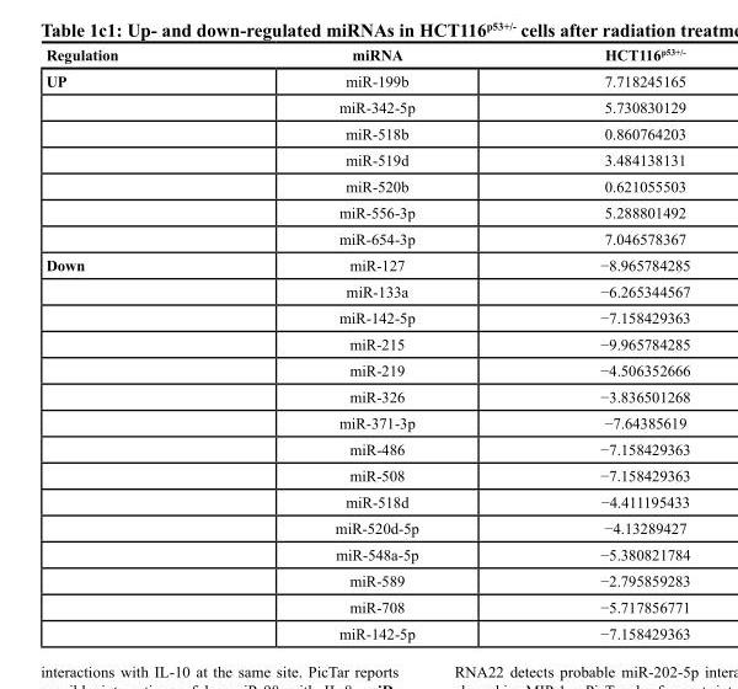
<table><thead><tr><td>Regulation</td><td>miRNA</td><td>HCT116<sup>p53+/-</sup></td></tr></thead><tbody><tr><td rowspan="7">UP</td><td>miR-199b</td><td>7.718245165</td></tr><tr><td>miR-342-5p</td><td>5.730830129</td></tr><tr><td>miR-518b</td><td>0.860764203</td></tr><tr><td>miR-519d</td><td>3.484138131</td></tr><tr><td>miR-520b</td><td>0.621055503</td></tr><tr><td>miR-556-3p</td><td>5.288801492</td></tr><tr><td>miR-654-3p</td><td>7.046578367</td></tr><tr><td rowspan="15">Down</td><td>miR-127</td><td>−8.965784285</td></tr><tr><td>miR-133a</td><td>−6.265344567</td></tr><tr><td>miR-142-5p</td><td>−7.158429363</td></tr><tr><td>miR-215</td><td>−9.965784285</td></tr><tr><td>miR-219</td><td>−4.506352666</td></tr><tr><td>miR-326</td><td>−3.836501268</td></tr><tr><td>miR-371-3p</td><td>−7.64385619</td></tr><tr><td>miR-486</td><td>−7.158429363</td></tr><tr><td>miR-508</td><td>−7.158429363</td></tr><tr><td>miR-518d</td><td>−4.411195433</td></tr><tr><td>miR-520d-5p</td><td>−4.13289427</td></tr><tr><td>miR-548a-5p</td><td>−5.380821784</td></tr><tr><td>miR-589</td><td>−2.795859283</td></tr><tr><td>miR-708</td><td>−5.717856771</td></tr><tr><td>miR-142-5p</td><td>−7.158429363</td></tr></tbody></table>